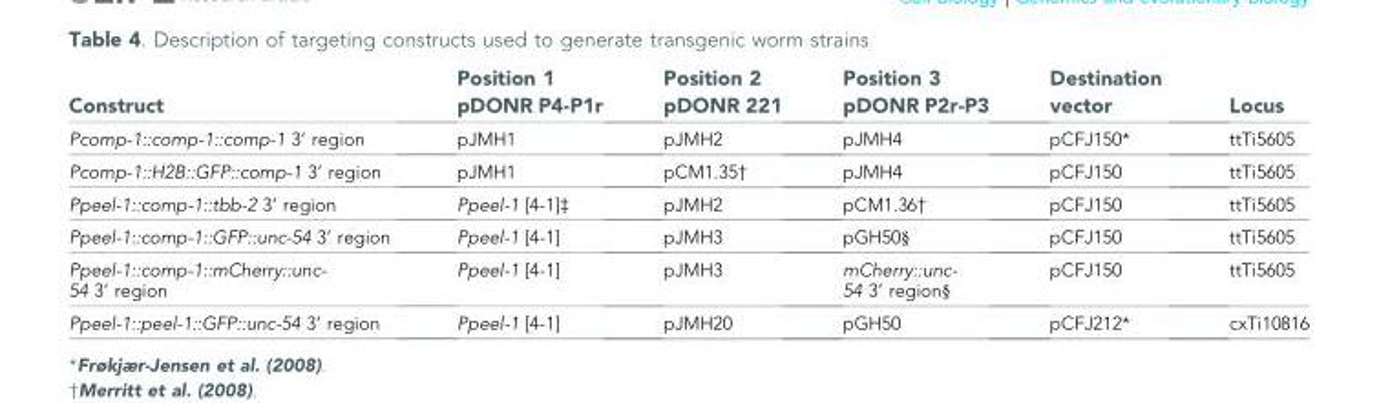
<table><thead><tr><td>Construct</td><td>Position 1 pDONR P4-P1r</td><td>Position 2 pDONR 221</td><td>Position 3 pDONR P2r-P3</td><td>Destination vector</td><td>Locus</td></tr></thead><tbody><tr><td>Pcomp-1::comp-1::comp-1 3’ region</td><td>pJMH1</td><td>pJMH2</td><td>pJMH4</td><td>pCFJ150*</td><td>ttTi5605</td></tr><tr><td>Pcomp-1::H2B::GFP::comp-1 3’ region</td><td>pJMH1</td><td>pCM1.35†</td><td>pJMH4</td><td>pCFJ150</td><td>ttTi5605</td></tr><tr><td>Ppeel-1::comp-1::tbb-2 3’ region</td><td>Ppeel-1 [4-1]‡</td><td>pJMH2</td><td>pCM1.36†</td><td>pCFJ150</td><td>ttTi5605</td></tr><tr><td>Ppeel-1::comp-1::GFP::unc-54 3’ region</td><td>Ppeel-1 [4-1]</td><td>pJMH3</td><td>pGH50§</td><td>pCFJ150</td><td>ttTi5605</td></tr><tr><td>Ppeel-1::comp-1::mCherry::unc- 54 3’ region</td><td>Ppeel-1 [4-1]</td><td>pJMH3</td><td>mCherry::unc- 54 3’ region§</td><td>pCFJ150</td><td>ttTi5605</td></tr><tr><td>Ppeel-1::peel-1::GFP::unc-54 3’ region</td><td>Ppeel-1 [4-1]</td><td>pJMH20</td><td>pGH50</td><td>pCFJ212*</td><td>cxTi10816</td></tr></tbody></table>